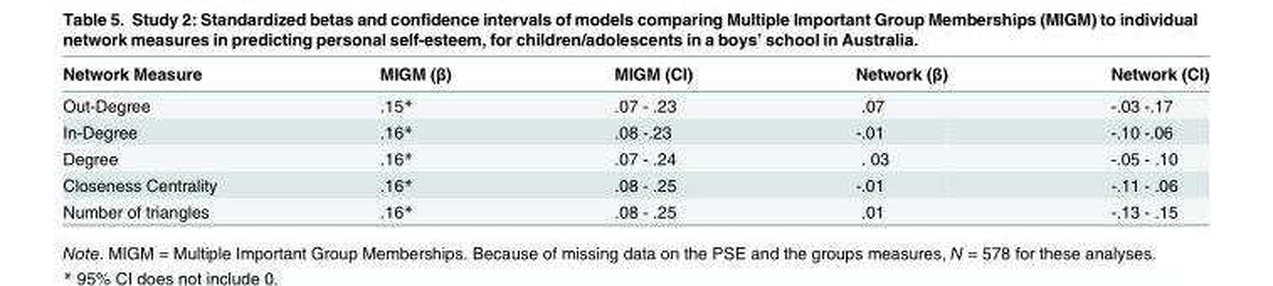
<table><thead><tr><td>Network Measure</td><td>MIGM (β)</td><td>MIGM (CI)</td><td>Network (β)</td><td>Network (CI)</td></tr></thead><tbody><tr><td>Out-Degree</td><td>.15*</td><td>.07 - .23</td><td>.07</td><td>-.03 -.17</td></tr><tr><td>In-Degree</td><td>.16*</td><td>.08 -.23</td><td>-.01</td><td>-.10 -.06</td></tr><tr><td>Degree</td><td>.16*</td><td>.07 - .24</td><td>. 03</td><td>-.05 - .10</td></tr><tr><td>Closeness Centrality</td><td>.16*</td><td>.08 - .25</td><td>-.01</td><td>-.11 - .06</td></tr><tr><td>Number of triangles</td><td>.16*</td><td>.08 - .25</td><td>.01</td><td>-.13 - .15</td></tr></tbody></table>